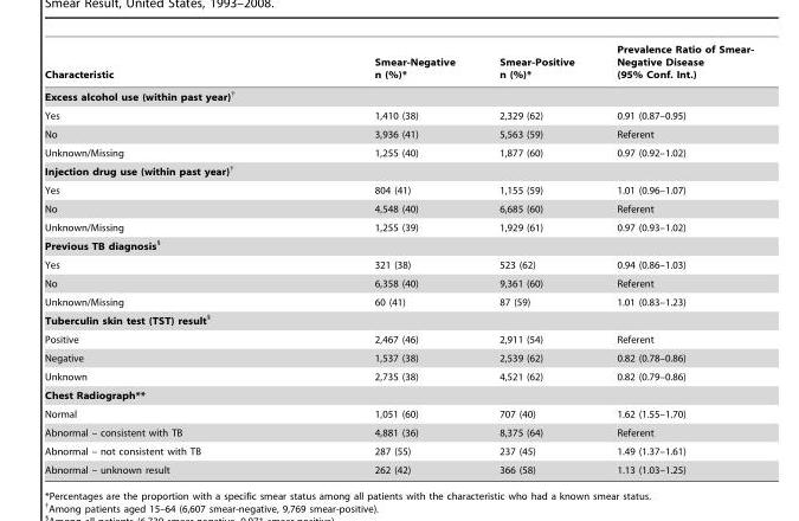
<table><thead><tr><td>Characteristic</td><td>Smear-Negative n (%)*</td><td>Smear-Positive n (%)*</td><td>Prevalence Ratio of Smear- Negative Disease (95% Conf. Int.)</td></tr></thead><tbody><tr><td colspan="4">Excess alcohol use (within past year)†</td></tr><tr><td>Yes</td><td>1,410 (38)</td><td>2,329 (62)</td><td>0.91 (0.87–0.95)</td></tr><tr><td>No</td><td>3,936 (41)</td><td>5,563 (59)</td><td>Referent</td></tr><tr><td>Unknown/Missing</td><td>1,255 (40)</td><td>1,877 (60)</td><td>0.97 (0.92–1.02)</td></tr><tr><td colspan="4">Injection drug use (within past year)†</td></tr><tr><td>Yes</td><td>804 (41)</td><td>1,155 (59)</td><td>1.01 (0.96–1.07)</td></tr><tr><td>No</td><td>4,548 (40)</td><td>6,685 (60)</td><td>Referent</td></tr><tr><td>Unknown/Missing</td><td>1,255 (39)</td><td>1,929 (61)</td><td>0.97 (0.93–1.02)</td></tr><tr><td colspan="4">Previous TB diagnosis§</td></tr><tr><td>Yes</td><td>321 (38)</td><td>523 (62)</td><td>0.94 (0.86–1.03)</td></tr><tr><td>No</td><td>6,358 (40)</td><td>9,361 (60)</td><td>Referent</td></tr><tr><td>Unknown/Missing</td><td>60 (41)</td><td>87 (59)</td><td>1.01 (0.83–1.23)</td></tr><tr><td colspan="4">Tuberculin skin test (TST) result§</td></tr><tr><td>Positive</td><td>2,467 (46)</td><td>2,911 (54)</td><td>Referent</td></tr><tr><td>Negative</td><td>1,537 (38)</td><td>2,539 (62)</td><td>0.82 (0.78–0.86)</td></tr><tr><td>Unknown</td><td>2,735 (38)</td><td>4,521 (62)</td><td>0.82 (0.79–0.86)</td></tr><tr><td colspan="4">Chest Radiograph**</td></tr><tr><td>Normal</td><td>1,051 (60)</td><td>707 (40)</td><td>1.62 (1.55–1.70)</td></tr><tr><td>Abnormal – consistent with TB</td><td>4,881 (36)</td><td>8,375 (64)</td><td>Referent</td></tr><tr><td>Abnormal – not consistent with TB</td><td>287 (55)</td><td>237 (45)</td><td>1.49 (1.37–1.61)</td></tr><tr><td>Abnormal – unknown result</td><td>262 (42)</td><td>366 (58)</td><td>1.13 (1.03–1.25)</td></tr></tbody></table>